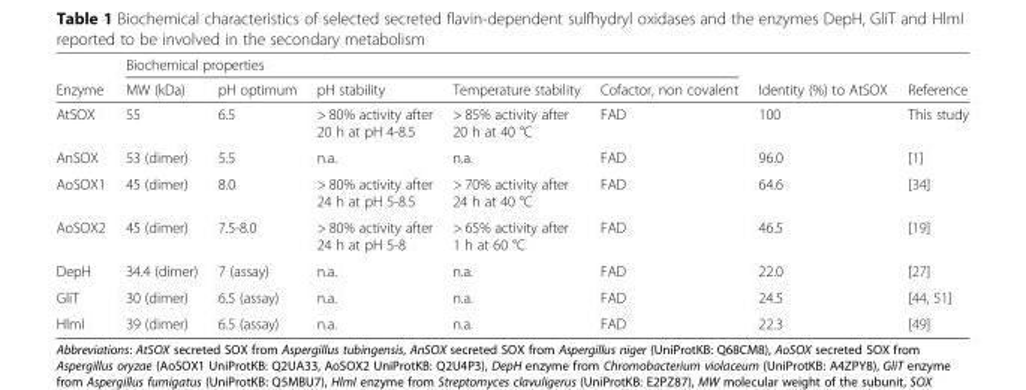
<table><thead><tr><td rowspan="2">Enzyme</td><td colspan="5">Biochemical properties</td><td rowspan="2">Identity (%) to AtSOX</td><td rowspan="2">Reference</td></tr><tr><td>MW (kDa)</td><td>pH optimum</td><td>pH stability</td><td>Temperature stability</td><td>Cofactor, non covalent</td></tr></thead><tbody><tr><td>AtSOX</td><td>55</td><td>6.5</td><td>&gt; 80% activity after 20 h at pH 4-8.5</td><td>&gt; 85% activity after 20 h at 40 °C</td><td>FAD</td><td>100</td><td>This study</td></tr><tr><td>AnSOX</td><td>53 (dimer)</td><td>5.5</td><td>n.a.</td><td>n.a.</td><td>FAD</td><td>96.0</td><td>[1]</td></tr><tr><td>AoSOX1</td><td>45 (dimer)</td><td>8.0</td><td>&gt; 80% activity after 24 h at pH 5-8.5</td><td>&gt; 70% activity after 24 h at 40 °C</td><td>FAD</td><td>64.6</td><td>[34]</td></tr><tr><td>AoSOX2</td><td>45 (dimer)</td><td>7.5-8.0</td><td>&gt; 80% activity after 24 h at pH 5-8</td><td>&gt; 65% activity after 1 h at 60 °C</td><td>FAD</td><td>46.5</td><td>[19]</td></tr><tr><td>DepH</td><td>34.4 (dimer)</td><td>7 (assay)</td><td>n.a.</td><td>n.a.</td><td>FAD</td><td>22.0</td><td>[27]</td></tr><tr><td>GliT</td><td>30 (dimer)</td><td>6.5 (assay)</td><td>n.a.</td><td>n.a.</td><td>FAD</td><td>24.5</td><td>[44, 51]</td></tr><tr><td>HlmI</td><td>39 (dimer)</td><td>6.5 (assay)</td><td>n.a.</td><td>n.a.</td><td>FAD</td><td>22.3</td><td>[49]</td></tr></tbody></table>